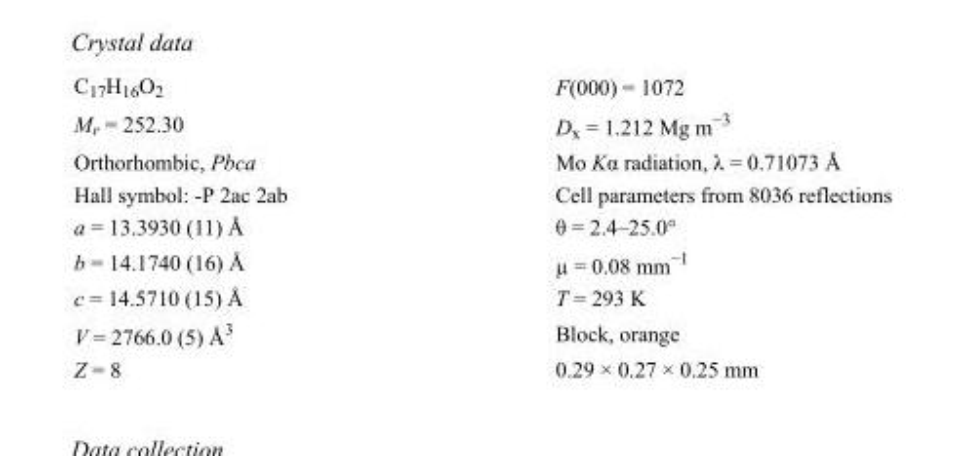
<table><tbody><tr><td>C<sub>17</sub>H<sub>16</sub>O<sub>2</sub></td><td>F(000) = 1072</td></tr><tr><td>M<sub>r</sub> = 252.30</td><td>D<sub>x</sub> = 1.212 Mg m<sup>−3</sup></td></tr><tr><td>Orthorhombic, Pbca</td><td>Mo Kα radiation, λ = 0.71073 Å</td></tr><tr><td>Hall symbol: -P 2ac 2ab</td><td>Cell parameters from 8036 reflections</td></tr><tr><td>a = 13.3930 (11) Å</td><td>θ = 2.4–25.0°</td></tr><tr><td>b = 14.1740 (16) Å</td><td>µ = 0.08 mm<sup>−1</sup></td></tr><tr><td>c = 14.5710 (15) Å</td><td>T = 293 K</td></tr><tr><td>V = 2766.0 (5) Å<sup>3</sup></td><td>Block, orange</td></tr><tr><td>Z = 8</td><td>0.29 × 0.27 × 0.25 mm</td></tr></tbody></table>